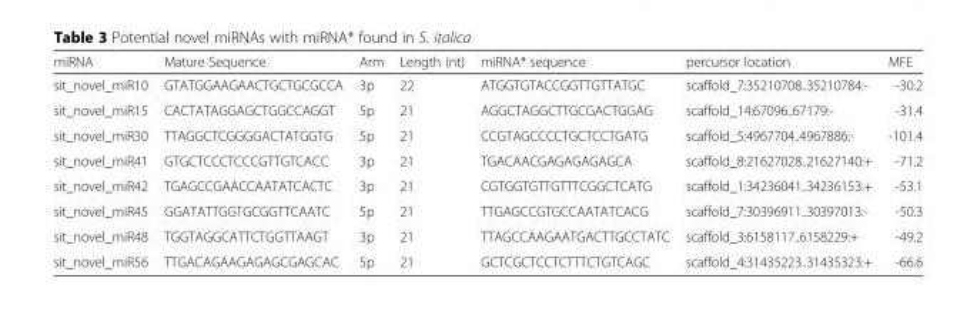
<table><thead><tr><td>miRNA</td><td>Mature Sequence</td><td>Arm</td><td>Length (nt)</td><td>miRNA* sequence</td><td>percursor location</td><td>MFE</td></tr></thead><tbody><tr><td>sit_novel_miR10</td><td>GTATGGAAGAACTGCTGCGCCA</td><td>3p</td><td>22</td><td>ATGGTGTACCGGTTGTTATGC</td><td>scaffold_7:35210708..35210784:-</td><td>-30.2</td></tr><tr><td>sit_novel_miR15</td><td>CACTATAGGAGCTGGCCAGGT</td><td>5p</td><td>21</td><td>AGGCTAGGCTTGCGACTGGAG</td><td>scaffold_14:67096..67179:-</td><td>-31.4</td></tr><tr><td>sit_novel_miR30</td><td>TTAGGCTCGGGGACTATGGTG</td><td>5p</td><td>21</td><td>CCGTAGCCCCTGCTCCTGATG</td><td>scaffold_5:4967704..4967886:-</td><td>-101.4</td></tr><tr><td>sit_novel_miR41</td><td>GTGCTCCCTCCCGTTGTCACC</td><td>3p</td><td>21</td><td>TGACAACGAGAGAGAGCA</td><td>scaffold_8:21627028..21627140:+</td><td>-71.2</td></tr><tr><td>sit_novel_miR42</td><td>TGAGCCGAACCAATATCACTC</td><td>3p</td><td>21</td><td>CGTGGTGTTGTTTCGGCTCATG</td><td>scaffold_1:34236041..34236153:+</td><td>-53.1</td></tr><tr><td>sit_novel_miR45</td><td>GGATATTGGTGCGGTTCAATC</td><td>5p</td><td>21</td><td>TTGAGCCGTGCCAATATCACG</td><td>scaffold_7:30396911..30397013:-</td><td>-50.3</td></tr><tr><td>sit_novel_miR48</td><td>TGGTAGGCATTCTGGTTAAGT</td><td>3p</td><td>21</td><td>TTAGCCAAGAATGACTTGCCTATC</td><td>scaffold_3:6158117..6158229:+</td><td>-49.2</td></tr><tr><td>sit_novel_miR56</td><td>TTGACAGAAGAGAGCGAGCAC</td><td>5p</td><td>21</td><td>GCTCGCTCCTCTTTCTGTCAGC</td><td>scaffold_4:31435223..31435323:+</td><td>-66.6</td></tr></tbody></table>